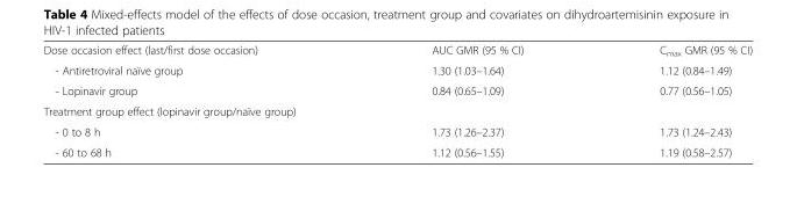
<table><tbody><tr><td>Dose occasion effect (last/first dose occasion)</td><td>AUC GMR (95 % CI)</td><td>C<sub>max</sub> GMR (95 % CI)</td></tr><tr><td>- Antiretroviral naïve group</td><td>1.30 (1.03–1.64)</td><td>1.12 (0.84–1.49)</td></tr><tr><td>- Lopinavir group</td><td>0.84 (0.65–1.09)</td><td>0.77 (0.56–1.05)</td></tr><tr><td colspan="3">Treatment group effect (lopinavir group/naïve group)</td></tr><tr><td>- 0 to 8 h</td><td>1.73 (1.26–2.37)</td><td>1.73 (1.24–2.43)</td></tr><tr><td>- 60 to 68 h</td><td>1.12 (0.56–1.55)</td><td>1.19 (0.58–2.57)</td></tr></tbody></table>